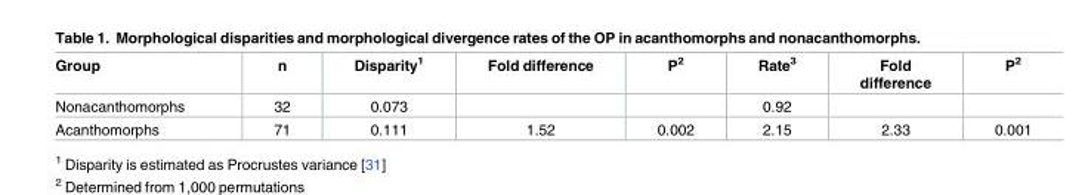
<table><thead><tr><td>Group</td><td>n</td><td>Disparity<sup>1</sup></td><td>Fold difference</td><td>P<sup>2</sup></td><td>Rate<sup>3</sup></td><td>Fold difference</td><td>P<sup>2</sup></td></tr></thead><tbody><tr><td>Nonacanthomorphs</td><td>32</td><td>0.073</td><td></td><td></td><td>0.92</td><td></td><td></td></tr><tr><td>Acanthomorphs</td><td>71</td><td>0.111</td><td>1.52</td><td>0.002</td><td>2.15</td><td>2.33</td><td>0.001</td></tr></tbody></table>